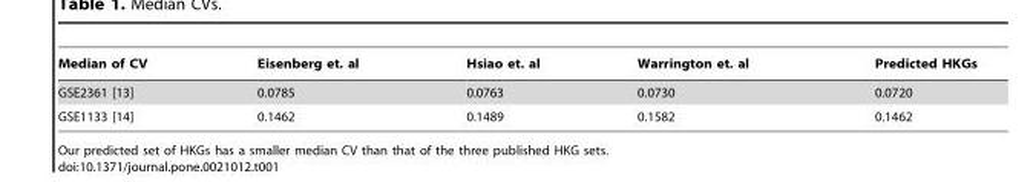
<table><thead><tr><td>Median of CV</td><td>Eisenberg et. al</td><td>Hsiao et. al</td><td>Warrington et. al</td><td>Predicted HKGs</td></tr></thead><tbody><tr><td>GSE2361 [13]</td><td>0.0785</td><td>0.0763</td><td>0.0730</td><td>0.0720</td></tr><tr><td>GSE1133 [14]</td><td>0.1462</td><td>0.1489</td><td>0.1582</td><td>0.1462</td></tr></tbody></table>